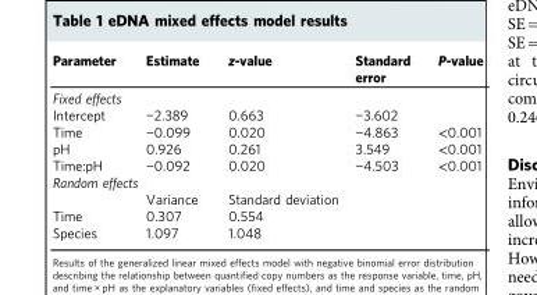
<table><thead><tr><td>Parameter</td><td>Estimate</td><td>z-value</td><td>Standard error</td><td>P-value</td></tr></thead><tbody><tr><td colspan="5">Fixed effects</td></tr><tr><td>Intercept</td><td>−2.389</td><td>0.663</td><td>−3.602</td><td></td></tr><tr><td>Time</td><td>−0.099</td><td>0.020</td><td>−4.863</td><td>&lt;0.001</td></tr><tr><td>pH</td><td>0.926</td><td>0.261</td><td>3.549</td><td>&lt;0.001</td></tr><tr><td>Time:pH</td><td>−0.092</td><td>0.020</td><td>−4.503</td><td>&lt;0.001</td></tr><tr><td colspan="5">Random effects</td></tr><tr><td></td><td>Variance</td><td>Standard deviation</td><td></td><td></td></tr><tr><td>Time</td><td>0.307</td><td>0.554</td><td></td><td></td></tr><tr><td>Species</td><td>1.097</td><td>1.048</td><td></td><td></td></tr></tbody></table>